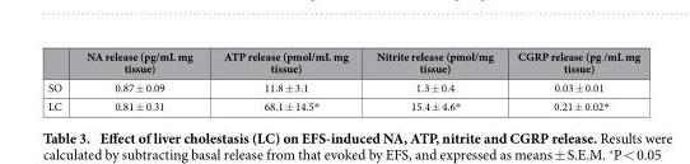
<table><thead><tr><td></td><td>NA release (pg/mL mg tissue)</td><td>ATP release (pmol/mL mg tissue)</td><td>Nitrite release (pmol/mg tissue)</td><td>CGRP release (pg /mL mg tissue)</td></tr></thead><tbody><tr><td>SO</td><td>0.87 ± 0.09</td><td>11.8 ± 3.1</td><td>1.3 ± 0.4</td><td>0.03 ± 0.01</td></tr><tr><td>LC</td><td>0.81 ± 0.31</td><td>68.1 ± 14.5*</td><td>15.4 ± 4.6*</td><td>0.21 ± 0.02*</td></tr></tbody></table>